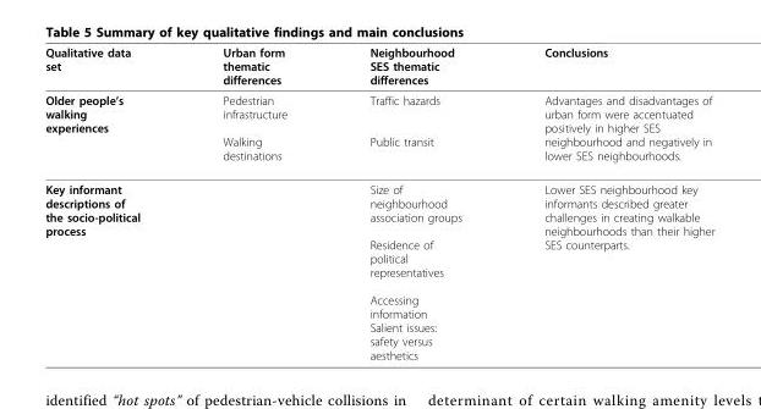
<table><thead><tr><td>Qualitative data set</td><td>Urban form thematic differences</td><td>Neighbourhood SES thematic differences</td><td>Conclusions</td></tr></thead><tbody><tr><td>Older people’s walking experiences</td><td>Pedestrian infrastructure Walking destinations</td><td>Traffic hazards Public transit</td><td>Advantages and disadvantages of urban form were accentuated positively in higher SES neighbourhood and negatively in lower SES neighbourhoods.</td></tr><tr><td>Key informant descriptions of the socio-political process</td><td></td><td>Size of neighbourhood association groups Residence of political representatives Accessing information Salient issues: safety versus aesthetics</td><td>Lower SES neighbourhood key informants described greater challenges in creating walkable neighbourhoods than their higher SES counterparts.</td></tr></tbody></table>